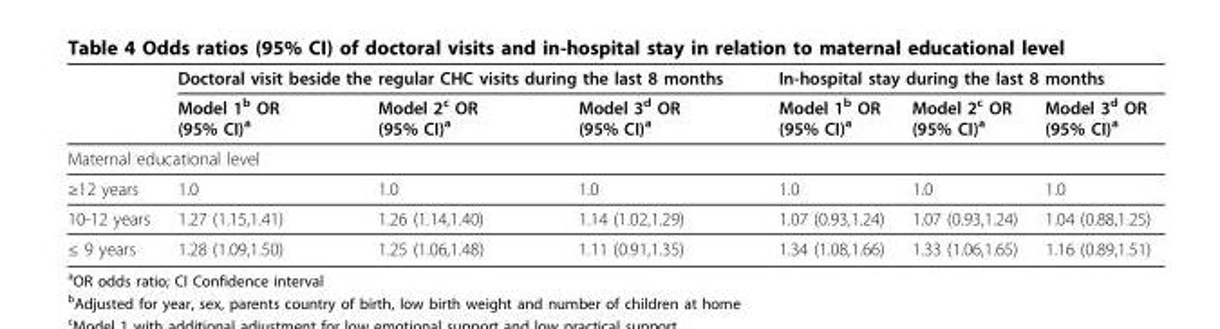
<table><thead><tr><td rowspan="2"></td><td colspan="3">Doctoral visit beside the regular CHC visits during the last 8 months</td><td colspan="3">In-hospital stay during the last 8 months</td></tr><tr><td>Model 1<sup>b</sup> OR (95% CI)<sup>a</sup></td><td>Model 2<sup>c</sup> OR (95% CI)<sup>a</sup></td><td>Model 3<sup>d</sup> OR (95% CI)<sup>a</sup></td><td>Model 1<sup>b</sup> OR (95% CI)<sup>a</sup></td><td>Model 2<sup>c</sup> OR (95% CI)<sup>a</sup></td><td>Model 3<sup>d</sup> OR (95% CI)<sup>a</sup></td></tr></thead><tbody><tr><td colspan="7">Maternal educational level</td></tr><tr><td>≥12 years</td><td>1.0</td><td>1.0</td><td>1.0</td><td>1.0</td><td>1.0</td><td>1.0</td></tr><tr><td>10-12 years</td><td>1.27 (1.15,1.41)</td><td>1.26 (1.14,1.40)</td><td>1.14 (1.02,1.29)</td><td>1.07 (0.93,1.24)</td><td>1.07 (0.93,1.24)</td><td>1.04 (0.88,1.25)</td></tr><tr><td>≤ 9 years</td><td>1.28 (1.09,1.50)</td><td>1.25 (1.06,1.48)</td><td>1.11 (0.91,1.35)</td><td>1.34 (1.08,1.66)</td><td>1.33 (1.06,1.65)</td><td>1.16 (0.89,1.51)</td></tr></tbody></table>